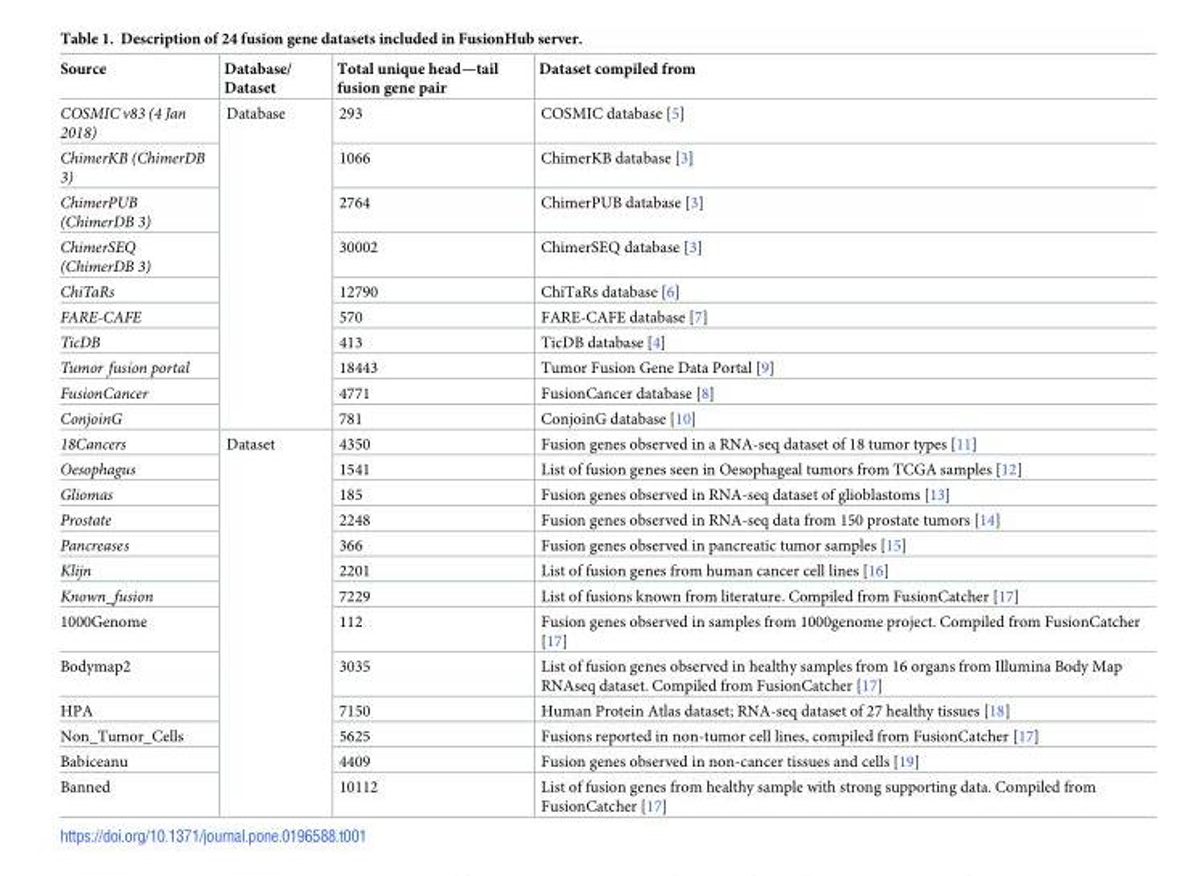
<table><thead><tr><td>Source</td><td>Database/ Dataset</td><td>Total unique head—tail fusion gene pair</td><td>Dataset compiled from</td></tr></thead><tbody><tr><td>COSMIC v83 (4 Jan 2018)</td><td rowspan="10">Database</td><td>293</td><td>COSMIC database [5]</td></tr><tr><td>ChimerKB (ChimerDB 3)</td><td>1066</td><td>ChimerKB database [3]</td></tr><tr><td>ChimerPUB (ChimerDB 3)</td><td>2764</td><td>ChimerPUB database [3]</td></tr><tr><td>ChimerSEQ (ChimerDB 3)</td><td>30002</td><td>ChimerSEQ database [3]</td></tr><tr><td>ChiTaRs</td><td>12790</td><td>ChiTaRs database [6]</td></tr><tr><td>FARE-CAFE</td><td>570</td><td>FARE-CAFE database [7]</td></tr><tr><td>TicDB</td><td>413</td><td>TicDB database [4]</td></tr><tr><td>Tumor fusion portal</td><td>18443</td><td>Tumor Fusion Gene Data Portal [9]</td></tr><tr><td>FusionCancer</td><td>4771</td><td>FusionCancer database [8]</td></tr><tr><td>ConjoinG</td><td>781</td><td>ConjoinG database [10]</td></tr><tr><td>18Cancers</td><td rowspan="13">Dataset</td><td>4350</td><td>Fusion genes observed in a RNA-seq dataset of 18 tumor types [11]</td></tr><tr><td>Oesophagus</td><td>1541</td><td>List of fusion genes seen in Oesophageal tumors from TCGA samples [12]</td></tr><tr><td>Gliomas</td><td>185</td><td>Fusion genes observed in RNA-seq dataset of glioblastoms [13]</td></tr><tr><td>Prostate</td><td>2248</td><td>Fusion genes observed in RNA-seq data from 150 prostate tumors [14]</td></tr><tr><td>Pancreases</td><td>366</td><td>Fusion genes observed in pancreatic tumor samples [15]</td></tr><tr><td>Klijn</td><td>2201</td><td>List of fusion genes from human cancer cell lines [16]</td></tr><tr><td>Known_fusion</td><td>7229</td><td>List of fusions known from literature. Compiled from FusionCatcher [17]</td></tr><tr><td>1000Genome</td><td>112</td><td>Fusion genes observed in samples from 1000genome project. Compiled from FusionCatcher [17]</td></tr><tr><td>Bodymap2</td><td>3035</td><td>List of fusion genes observed in healthy samples from 16 organs from Illumina Body Map RNAseq dataset. Compiled from FusionCatcher [17]</td></tr><tr><td>HPA</td><td>7150</td><td>Human Protein Atlas dataset; RNA-seq dataset of 27 healthy tissues [18]</td></tr><tr><td>Non_Tumor_Cells</td><td>5625</td><td>Fusions reported in non-tumor cell lines, compiled from FusionCatcher [17]</td></tr><tr><td>Babiceanu</td><td>4409</td><td>Fusion genes observed in non-cancer tissues and cells [19]</td></tr><tr><td>Banned</td><td>10112</td><td>List of fusion genes from healthy sample with strong supporting data. Compiled from FusionCatcher [17]</td></tr></tbody></table>